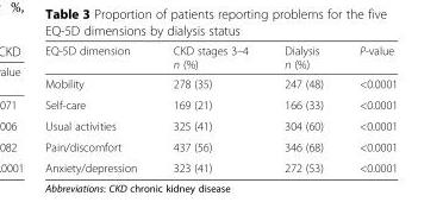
<table><thead><tr><td>EQ-5D dimension</td><td>CKD stages 3–4 n (%)</td><td>Dialysis n (%)</td><td>P-value</td></tr></thead><tbody><tr><td>Mobility</td><td>278 (35)</td><td>247 (48)</td><td>&lt;0.0001</td></tr><tr><td>Self-care</td><td>169 (21)</td><td>166 (33)</td><td>&lt;0.0001</td></tr><tr><td>Usual activities</td><td>325 (41)</td><td>304 (60)</td><td>&lt;0.0001</td></tr><tr><td>Pain/discomfort</td><td>437 (56)</td><td>346 (68)</td><td>&lt;0.0001</td></tr><tr><td>Anxiety/depression</td><td>323 (41)</td><td>272 (53)</td><td>&lt;0.0001</td></tr></tbody></table>